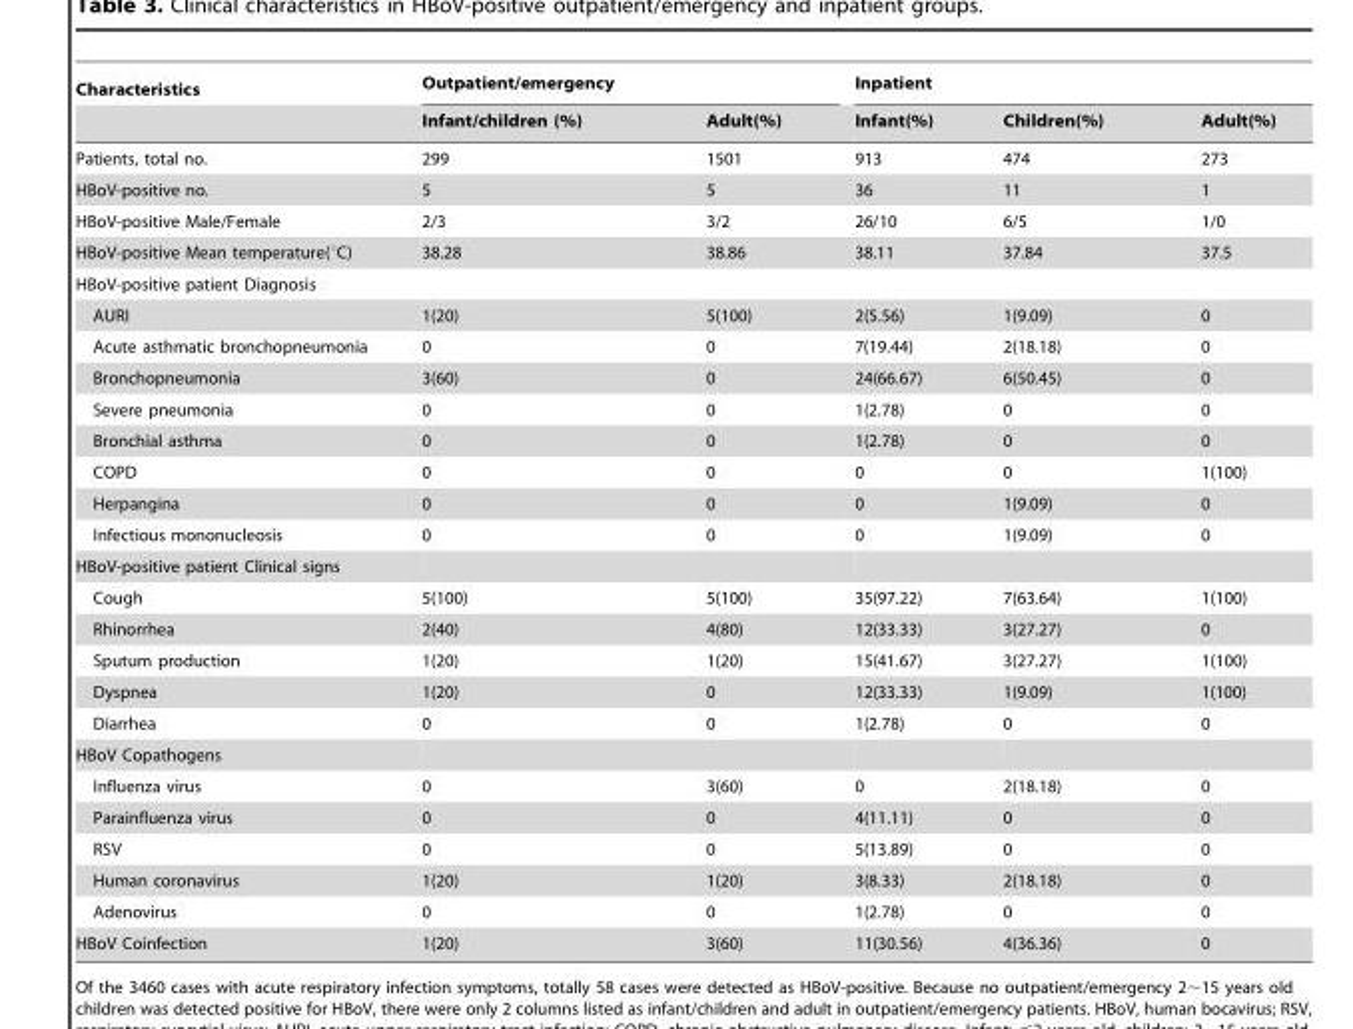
<table><thead><tr><td rowspan="2">Characteristics</td><td colspan="2">Outpatient/emergency</td><td colspan="3">Inpatient</td></tr><tr><td>Infant/children (%)</td><td>Adult(%)</td><td>Infant(%)</td><td>Children(%)</td><td>Adult(%)</td></tr></thead><tbody><tr><td>Patients, total no.</td><td>299</td><td>1501</td><td>913</td><td>474</td><td>273</td></tr><tr><td>HBoV-positive no.</td><td>5</td><td>5</td><td>36</td><td>11</td><td>1</td></tr><tr><td>HBoV-positive Male/Female</td><td>2/3</td><td>3/2</td><td>26/10</td><td>6/5</td><td>1/0</td></tr><tr><td>HBoV-positive Mean temperature(°C)</td><td>38.28</td><td>38.86</td><td>38.11</td><td>37.84</td><td>37.5</td></tr><tr><td colspan="6">HBoV-positive patient Diagnosis</td></tr><tr><td>AURI</td><td>1(20)</td><td>5(100)</td><td>2(5.56)</td><td>1(9.09)</td><td>0</td></tr><tr><td>Acute asthmatic bronchopneumonia</td><td>0</td><td>0</td><td>7(19.44)</td><td>2(18.18)</td><td>0</td></tr><tr><td>Bronchopneumonia</td><td>3(60)</td><td>0</td><td>24(66.67)</td><td>6(50.45)</td><td>0</td></tr><tr><td>Severe pneumonia</td><td>0</td><td>0</td><td>1(2.78)</td><td>0</td><td>0</td></tr><tr><td>Bronchial asthma</td><td>0</td><td>0</td><td>1(2.78)</td><td>0</td><td>0</td></tr><tr><td>COPD</td><td>0</td><td>0</td><td>0</td><td>0</td><td>1(100)</td></tr><tr><td>Herpangina</td><td>0</td><td>0</td><td>0</td><td>1(9.09)</td><td>0</td></tr><tr><td>Infectious mononucleosis</td><td>0</td><td>0</td><td>0</td><td>1(9.09)</td><td>0</td></tr><tr><td colspan="6">HBoV-positive patient Clinical signs</td></tr><tr><td>Cough</td><td>5(100)</td><td>5(100)</td><td>35(97.22)</td><td>7(63.64)</td><td>1(100)</td></tr><tr><td>Rhinorrhea</td><td>2(40)</td><td>4(80)</td><td>12(33.33)</td><td>3(27.27)</td><td>0</td></tr><tr><td>Sputum production</td><td>1(20)</td><td>1(20)</td><td>15(41.67)</td><td>3(27.27)</td><td>1(100)</td></tr><tr><td>Dyspnea</td><td>1(20)</td><td>0</td><td>12(33.33)</td><td>1(9.09)</td><td>1(100)</td></tr><tr><td>Diarrhea</td><td>0</td><td>0</td><td>1(2.78)</td><td>0</td><td>0</td></tr><tr><td colspan="6">HBoV Copathogens</td></tr><tr><td>Influenza virus</td><td>0</td><td>3(60)</td><td>0</td><td>2(18.18)</td><td>0</td></tr><tr><td>Parainfluenza virus</td><td>0</td><td>0</td><td>4(11.11)</td><td>0</td><td>0</td></tr><tr><td>RSV</td><td>0</td><td>0</td><td>5(13.89)</td><td>0</td><td>0</td></tr><tr><td>Human coronavirus</td><td>1(20)</td><td>1(20)</td><td>3(8.33)</td><td>2(18.18)</td><td>0</td></tr><tr><td>Adenovirus</td><td>0</td><td>0</td><td>1(2.78)</td><td>0</td><td>0</td></tr><tr><td>HBoV Coinfection</td><td>1(20)</td><td>3(60)</td><td>11(30.56)</td><td>4(36.36)</td><td>0</td></tr></tbody></table>